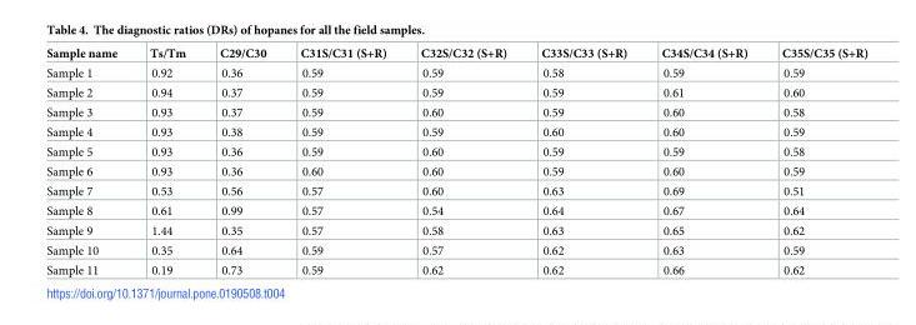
<table><thead><tr><td>Sample name</td><td>Ts/Tm</td><td>C29/C30</td><td>C31S/C31 (S+R)</td><td>C32S/C32 (S+R)</td><td>C33S/C33 (S+R)</td><td>C34S/C34 (S+R)</td><td>C35S/C35 (S+R)</td></tr></thead><tbody><tr><td>Sample 1</td><td>0.92</td><td>0.36</td><td>0.59</td><td>0.59</td><td>0.58</td><td>0.59</td><td>0.59</td></tr><tr><td>Sample 2</td><td>0.94</td><td>0.37</td><td>0.59</td><td>0.59</td><td>0.59</td><td>0.61</td><td>0.60</td></tr><tr><td>Sample 3</td><td>0.93</td><td>0.37</td><td>0.59</td><td>0.60</td><td>0.59</td><td>0.60</td><td>0.58</td></tr><tr><td>Sample 4</td><td>0.93</td><td>0.38</td><td>0.59</td><td>0.59</td><td>0.60</td><td>0.60</td><td>0.59</td></tr><tr><td>Sample 5</td><td>0.93</td><td>0.36</td><td>0.59</td><td>0.60</td><td>0.59</td><td>0.59</td><td>0.58</td></tr><tr><td>Sample 6</td><td>0.93</td><td>0.36</td><td>0.60</td><td>0.60</td><td>0.59</td><td>0.60</td><td>0.59</td></tr><tr><td>Sample 7</td><td>0.53</td><td>0.56</td><td>0.57</td><td>0.60</td><td>0.63</td><td>0.69</td><td>0.51</td></tr><tr><td>Sample 8</td><td>0.61</td><td>0.99</td><td>0.57</td><td>0.54</td><td>0.64</td><td>0.67</td><td>0.64</td></tr><tr><td>Sample 9</td><td>1.44</td><td>0.35</td><td>0.57</td><td>0.58</td><td>0.63</td><td>0.65</td><td>0.62</td></tr><tr><td>Sample 10</td><td>0.35</td><td>0.64</td><td>0.59</td><td>0.57</td><td>0.62</td><td>0.63</td><td>0.59</td></tr><tr><td>Sample 11</td><td>0.19</td><td>0.73</td><td>0.59</td><td>0.62</td><td>0.62</td><td>0.66</td><td>0.62</td></tr></tbody></table>